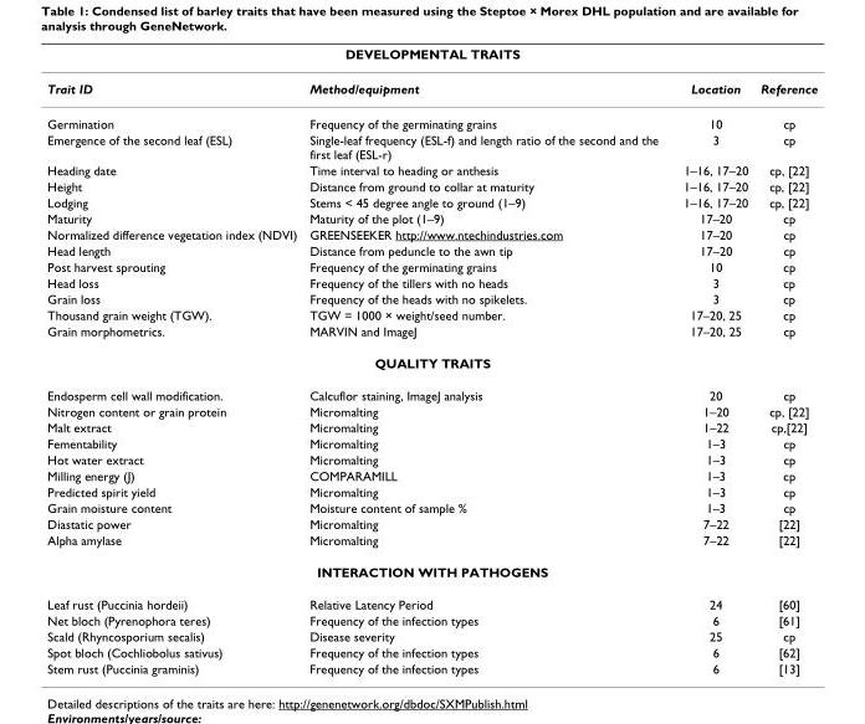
<table><thead><tr><td colspan="4">DEVELOPMENTAL TRAITS</td></tr><tr><td>Trait ID</td><td>Method/equipment</td><td>Location</td><td>Reference</td></tr></thead><tbody><tr><td>Germination</td><td>Frequency of the germinating grains</td><td>10</td><td>cp</td></tr><tr><td>Emergence of the second leaf (ESL)</td><td>Single-leaf frequency (ESL-f) and length ratio of the second and the first leaf (ESL-r)</td><td>3</td><td>cp</td></tr><tr><td>Heading date</td><td>Time interval to heading or anthesis</td><td>1–16, 17–20</td><td>cp, [22]</td></tr><tr><td>Height</td><td>Distance from ground to collar at maturity</td><td>1–16, 17–20</td><td>cp, [22]</td></tr><tr><td>Lodging</td><td>Stems &lt; 45 degree angle to ground (1–9)</td><td>1–16, 17–20</td><td>cp, [22]</td></tr><tr><td>Maturity</td><td>Maturity of the plot (1–9)</td><td>17–20</td><td>cp</td></tr><tr><td>Normalized difference vegetation index (NDVI)</td><td>GREENSEEKER http://www.ntechindustries.com</td><td>17–20</td><td>cp</td></tr><tr><td>Head length</td><td>Distance from peduncle to the awn tip</td><td>17–20</td><td>cp</td></tr><tr><td>Post harvest sprouting</td><td>Frequency of the germinating grains</td><td>10</td><td>cp</td></tr><tr><td>Head loss</td><td>Frequency of the tillers with no heads</td><td>3</td><td>cp</td></tr><tr><td>Grain loss</td><td>Frequency of the heads with no spikelets.</td><td>3</td><td>cp</td></tr><tr><td>Thousand grain weight (TGW).</td><td>TGW = 1000 × weight/seed number.</td><td>17–20, 25</td><td>cp</td></tr><tr><td>Grain morphometrics.</td><td>MARVIN and ImageJ</td><td>17–20, 25</td><td>cp</td></tr><tr><td colspan="4">QUALITY TRAITS</td></tr><tr><td>Endosperm cell wall modification.</td><td>Calcuflor staining, ImageJ analysis</td><td>20</td><td>cp</td></tr><tr><td>Nitrogen content or grain protein</td><td>Micromalting</td><td>1–20</td><td>cp, [22]</td></tr><tr><td>Malt extract</td><td>Micromalting</td><td>1–22</td><td>cp,[22]</td></tr><tr><td>Fementability</td><td>Micromalting</td><td>1–3</td><td>cp</td></tr><tr><td>Hot water extract</td><td>Micromalting</td><td>1–3</td><td>cp</td></tr><tr><td>Milling energy (J)</td><td>COMPARAMILL</td><td>1–3</td><td>cp</td></tr><tr><td>Predicted spirit yield</td><td>Micromalting</td><td>1–3</td><td>cp</td></tr><tr><td>Grain moisture content</td><td>Moisture content of sample %</td><td>1–3</td><td>cp</td></tr><tr><td>Diastatic power</td><td>Micromalting</td><td>7–22</td><td>[22]</td></tr><tr><td>Alpha amylase</td><td>Micromalting</td><td>7–22</td><td>[22]</td></tr><tr><td colspan="4">INTERACTION WITH PATHOGENS</td></tr><tr><td>Leaf rust (Puccinia hordeii)</td><td>Relative Latency Period</td><td>24</td><td>[60]</td></tr><tr><td>Net bloch (Pyrenophora teres)</td><td>Frequency of the infection types</td><td>6</td><td>[61]</td></tr><tr><td>Scald (Rhyncosporium secalis)</td><td>Disease severity</td><td>25</td><td>cp</td></tr><tr><td>Spot bloch (Cochliobolus sativus)</td><td>Frequency of the infection types</td><td>6</td><td>[62]</td></tr><tr><td>Stem rust (Puccinia graminis)</td><td>Frequency of the infection types</td><td>6</td><td>[13]</td></tr></tbody></table>